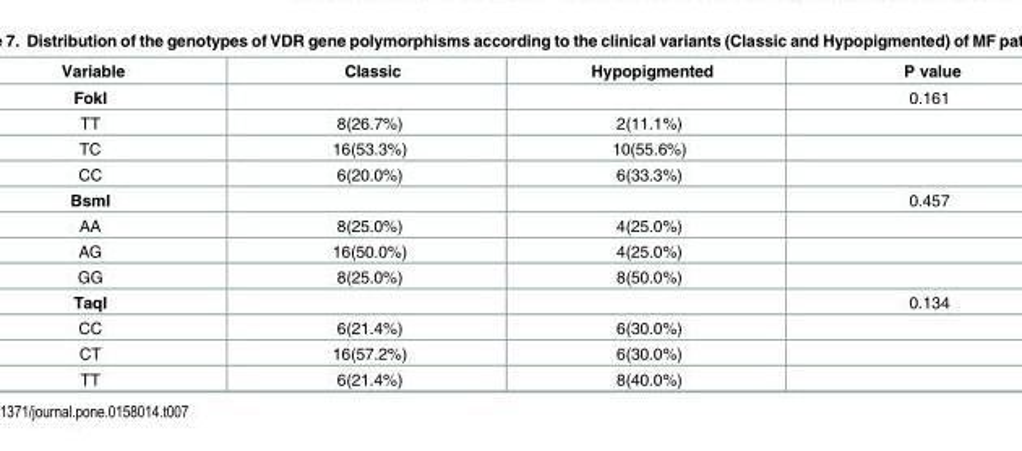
<table><thead><tr><td>Variable</td><td>Classic</td><td>Hypopigmented</td><td>P value</td></tr></thead><tbody><tr><td>FokI</td><td></td><td></td><td>0.161</td></tr><tr><td>TT</td><td>8(26.7%)</td><td>2(11.1%)</td><td></td></tr><tr><td>TC</td><td>16(53.3%)</td><td>10(55.6%)</td><td></td></tr><tr><td>CC</td><td>6(20.0%)</td><td>6(33.3%)</td><td></td></tr><tr><td>BsmI</td><td></td><td></td><td>0.457</td></tr><tr><td>AA</td><td>8(25.0%)</td><td>4(25.0%)</td><td></td></tr><tr><td>AG</td><td>16(50.0%)</td><td>4(25.0%)</td><td></td></tr><tr><td>GG</td><td>8(25.0%)</td><td>8(50.0%)</td><td></td></tr><tr><td>TaqI</td><td></td><td></td><td>0.134</td></tr><tr><td>CC</td><td>6(21.4%)</td><td>6(30.0%)</td><td></td></tr><tr><td>CT</td><td>16(57.2%)</td><td>6(30.0%)</td><td></td></tr><tr><td>TT</td><td>6(21.4%)</td><td>8(40.0%)</td><td></td></tr></tbody></table>